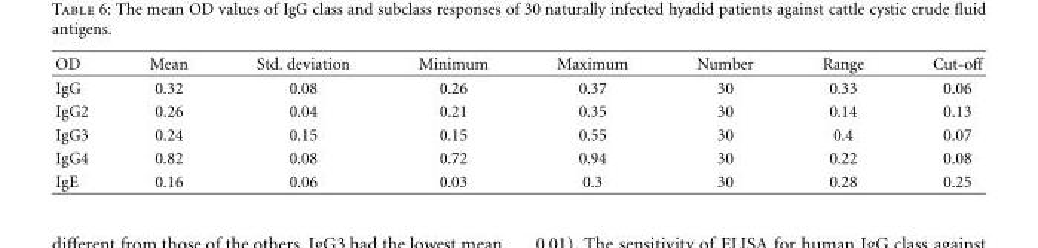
<table><thead><tr><td>OD</td><td>Mean</td><td>Std. deviation</td><td>Minimum</td><td>Maximum</td><td>Number</td><td>Range</td><td>Cut-off</td></tr></thead><tbody><tr><td>IgG</td><td>0.32</td><td>0.08</td><td>0.26</td><td>0.37</td><td>30</td><td>0.33</td><td>0.06</td></tr><tr><td>IgG2</td><td>0.26</td><td>0.04</td><td>0.21</td><td>0.35</td><td>30</td><td>0.14</td><td>0.13</td></tr><tr><td>IgG3</td><td>0.24</td><td>0.15</td><td>0.15</td><td>0.55</td><td>30</td><td>0.4</td><td>0.07</td></tr><tr><td>IgG4</td><td>0.82</td><td>0.08</td><td>0.72</td><td>0.94</td><td>30</td><td>0.22</td><td>0.08</td></tr><tr><td>IgE</td><td>0.16</td><td>0.06</td><td>0.03</td><td>0.3</td><td>30</td><td>0.28</td><td>0.25</td></tr></tbody></table>